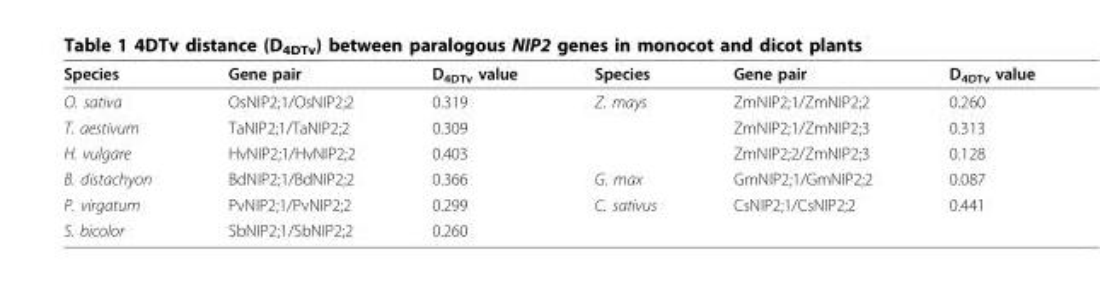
<table><thead><tr><td>Species</td><td>Gene pair</td><td>D<sub>4DTv</sub> value</td><td>Species</td><td>Gene pair</td><td>D<sub>4DTv</sub> value</td></tr></thead><tbody><tr><td>O. sativa</td><td>OsNIP2;1/OsNIP2;2</td><td>0.319</td><td>Z. mays</td><td>ZmNIP2;1/ZmNIP2;2</td><td>0.260</td></tr><tr><td>T. aestivum</td><td>TaNIP2;1/TaNIP2;2</td><td>0.309</td><td></td><td>ZmNIP2;1/ZmNIP2;3</td><td>0.313</td></tr><tr><td>H. vulgare</td><td>HvNIP2;1/HvNIP2;2</td><td>0.403</td><td></td><td>ZmNIP2;2/ZmNIP2;3</td><td>0.128</td></tr><tr><td>B. distachyon</td><td>BdNIP2;1/BdNIP2;2</td><td>0.366</td><td>G. max</td><td>GmNIP2;1/GmNIP2;2</td><td>0.087</td></tr><tr><td>P. virgatum</td><td>PvNIP2;1/PvNIP2;2</td><td>0.299</td><td>C. sativus</td><td>CsNIP2;1/CsNIP2;2</td><td>0.441</td></tr><tr><td>S. bicolor</td><td>SbNIP2;1/SbNIP2;2</td><td>0.260</td><td></td><td></td><td></td></tr></tbody></table>